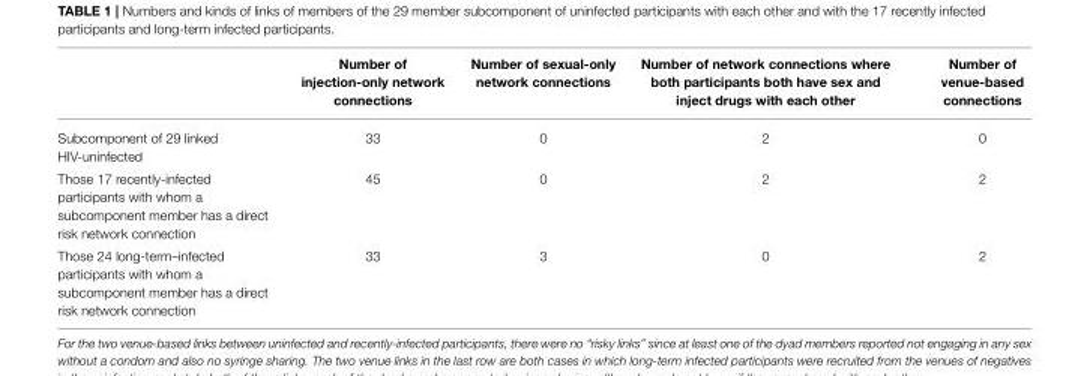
<table><thead><tr><td></td><td>Number of injection-only network connections</td><td>Number of sexual-only network connections</td><td>Number of network connections where both participants both have sex and inject drugs with each other</td><td>Number of venue-based connections</td></tr></thead><tbody><tr><td>Subcomponent of 29 linked HIV-uninfected</td><td>33</td><td>0</td><td>2</td><td>0</td></tr><tr><td>Those 17 recently-infected participants with whom a subcomponent member has a direct risk network connection</td><td>45</td><td>0</td><td>2</td><td>2</td></tr><tr><td>Those 24 long-term–infected participants with whom a subcomponent member has a direct risk network connection</td><td>33</td><td>3</td><td>0</td><td>2</td></tr></tbody></table>